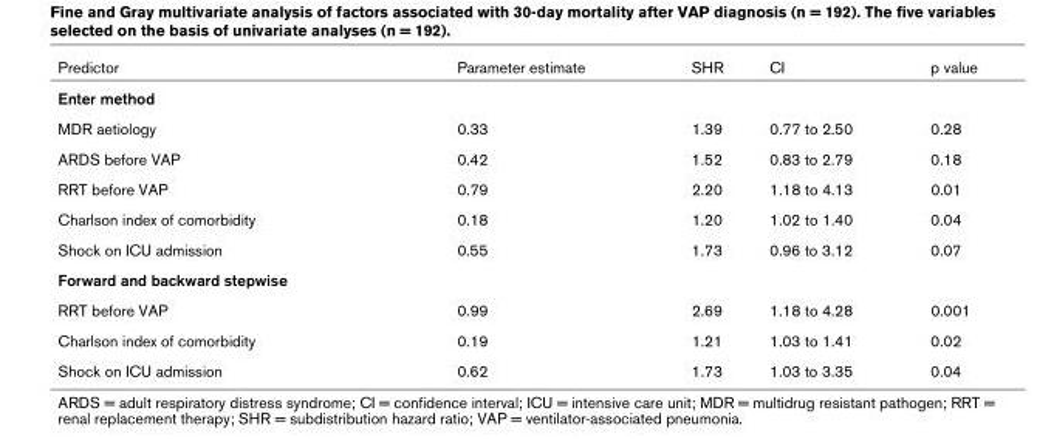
<table><thead><tr><td>Predictor</td><td>Parameter estimate</td><td>SHR</td><td>CI</td><td>p value</td></tr></thead><tbody><tr><td colspan="5">Enter method</td></tr><tr><td>MDR aetiology</td><td>0.33</td><td>1.39</td><td>0.77 to 2.50</td><td>0.28</td></tr><tr><td>ARDS before VAP</td><td>0.42</td><td>1.52</td><td>0.83 to 2.79</td><td>0.18</td></tr><tr><td>RRT before VAP</td><td>0.79</td><td>2.20</td><td>1.18 to 4.13</td><td>0.01</td></tr><tr><td>Charlson index of comorbidity</td><td>0.18</td><td>1.20</td><td>1.02 to 1.40</td><td>0.04</td></tr><tr><td>Shock on ICU admission</td><td>0.55</td><td>1.73</td><td>0.96 to 3.12</td><td>0.07</td></tr><tr><td colspan="5">Forward and backward stepwise</td></tr><tr><td>RRT before VAP</td><td>0.99</td><td>2.69</td><td>1.18 to 4.28</td><td>0.001</td></tr><tr><td>Charlson index of comorbidity</td><td>0.19</td><td>1.21</td><td>1.03 to 1.41</td><td>0.02</td></tr><tr><td>Shock on ICU admission</td><td>0.62</td><td>1.73</td><td>1.03 to 3.35</td><td>0.04</td></tr></tbody></table>